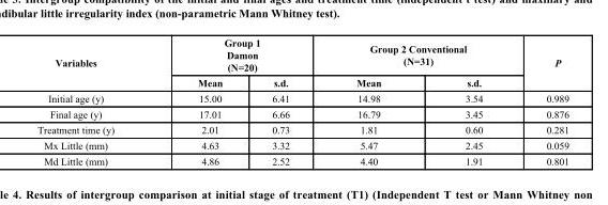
<table><thead><tr><td rowspan="2">Variables</td><td colspan="2">Group 1 Damon (N=20)</td><td colspan="2">Group 2 Conventional (N=31)</td><td rowspan="2">P</td></tr><tr><td>Mean</td><td>s.d.</td><td>Mean</td><td>s.d.</td></tr></thead><tbody><tr><td>Initial age (y)</td><td>15.00</td><td>6.41</td><td>14.98</td><td>3.54</td><td>0.989</td></tr><tr><td>Final age (y)</td><td>17.01</td><td>6.66</td><td>16.79</td><td>3.45</td><td>0.876</td></tr><tr><td>Treatment time (y)</td><td>2.01</td><td>0.73</td><td>1.81</td><td>0.60</td><td>0.281</td></tr><tr><td>Mx Little (mm)</td><td>4.63</td><td>3.32</td><td>5.47</td><td>2.45</td><td>0.059</td></tr><tr><td>Md Little (mm)</td><td>4.86</td><td>2.52</td><td>4.40</td><td>1.91</td><td>0.801</td></tr></tbody></table>